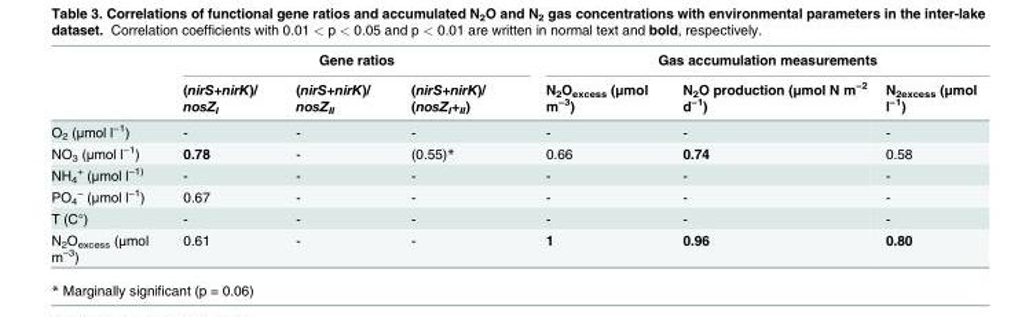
<table><thead><tr><td rowspan="2"></td><td colspan="3">Gene ratios</td><td colspan="3">Gas accumulation measurements</td></tr><tr><td>(nirS+nirK)/ nosZ<sub>I</sub></td><td>(nirS+nirK)/ nosZ<sub>II</sub></td><td>(nirS+nirK)/ (nosZ<sub>I</sub>+<sub>II</sub>)</td><td>N<sub>2</sub>O<sub>excess</sub> (μmol m<sup>−3</sup>)</td><td>N<sub>2</sub>O production (μmol N m<sup>−2</sup> d<sup>−1</sup>)</td><td>N<sub>2excess</sub> (μmol l<sup>−1</sup>)</td></tr></thead><tbody><tr><td>O<sub>2</sub> (μmol l<sup>−1</sup>)</td><td>-</td><td>-</td><td>-</td><td>-</td><td>-</td><td>-</td></tr><tr><td>NO<sub>3</sub> (μmol l<sup>−1</sup>)</td><td>0.78</td><td>-</td><td>(0.55)*</td><td>0.66</td><td>0.74</td><td>0.58</td></tr><tr><td>NH<sub>4</sub> <sup>+</sup> (μmol l<sup>−1)</sup></td><td>-</td><td>-</td><td>-</td><td>-</td><td>-</td><td>-</td></tr><tr><td>PO<sub>4</sub> <sup>−</sup> (μmol l<sup>−1</sup>)</td><td>0.67</td><td>-</td><td>-</td><td>-</td><td>-</td><td>-</td></tr><tr><td>T (C°)</td><td>-</td><td>-</td><td>-</td><td>-</td><td>-</td><td>-</td></tr><tr><td>N<sub>2</sub>O<sub>excess</sub> (μmol m<sup>−3</sup>)</td><td>0.61</td><td>-</td><td>-</td><td>1</td><td>0.96</td><td>0.80</td></tr></tbody></table>